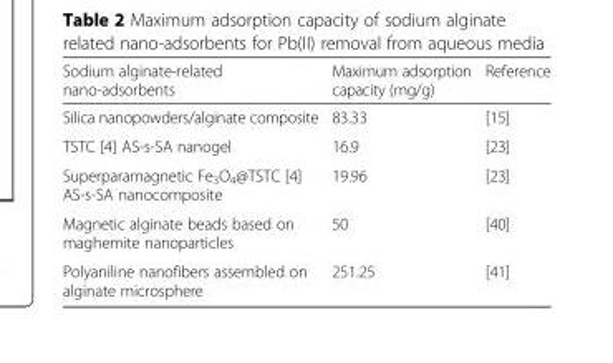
<table><thead><tr><td>Sodium alginate-related nano-adsorbents</td><td>Maximum adsorption capacity (mg/g)</td><td>Reference</td></tr></thead><tbody><tr><td>Silica nanopowders/alginate composite</td><td>83.33</td><td>[15]</td></tr><tr><td>TSTC [4] AS-s-SA nanogel</td><td>16.9</td><td>[23]</td></tr><tr><td>Superparamagnetic Fe<sub>3</sub>O<sub>4</sub>@TSTC [4] AS-s-SA nanocomposite</td><td>19.96</td><td>[23]</td></tr><tr><td>Magnetic alginate beads based on maghemite nanoparticles</td><td>50</td><td>[40]</td></tr><tr><td>Polyaniline nanofibers assembled on alginate microsphere</td><td>251.25</td><td>[41]</td></tr></tbody></table>